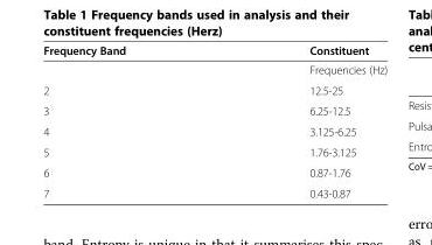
<table><thead><tr><td>Frequency Band</td><td>Constituent</td></tr></thead><tbody><tr><td></td><td>Frequencies (Hz)</td></tr><tr><td>2</td><td>12.5-25</td></tr><tr><td>3</td><td>6.25-12.5</td></tr><tr><td>4</td><td>3.125-6.25</td></tr><tr><td>5</td><td>1.76-3.125</td></tr><tr><td>6</td><td>0.87-1.76</td></tr><tr><td>7</td><td>0.43-0.87</td></tr></tbody></table>